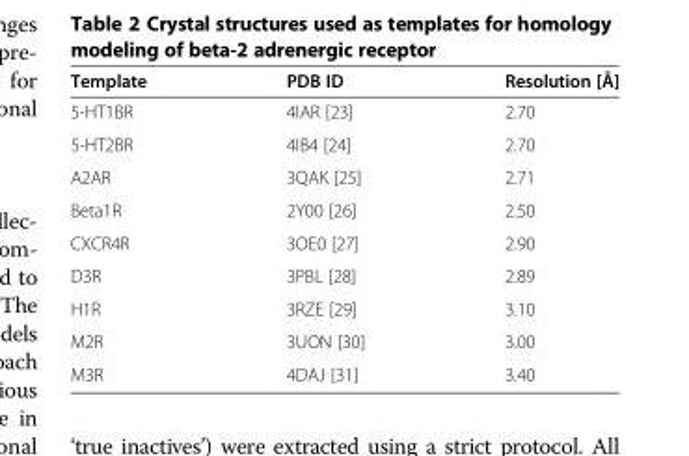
<table><thead><tr><td>Template</td><td>PDB ID</td><td>Resolution [Å]</td></tr></thead><tbody><tr><td>5-HT1BR</td><td>4IAR [23]</td><td>2.70</td></tr><tr><td>5-HT2BR</td><td>4IB4 [24]</td><td>2.70</td></tr><tr><td>A2AR</td><td>3QAK [25]</td><td>2.71</td></tr><tr><td>Beta1R</td><td>2Y00 [26]</td><td>2.50</td></tr><tr><td>CXCR4R</td><td>3OE0 [27]</td><td>2.90</td></tr><tr><td>D3R</td><td>3PBL [28]</td><td>2.89</td></tr><tr><td>H1R</td><td>3RZE [29]</td><td>3.10</td></tr><tr><td>M2R</td><td>3UON [30]</td><td>3.00</td></tr><tr><td>M3R</td><td>4DAJ [31]</td><td>3.40</td></tr></tbody></table>